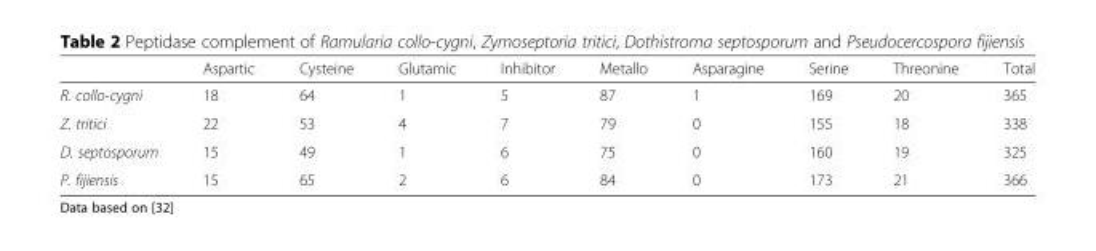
<table><thead><tr><td></td><td>Aspartic</td><td>Cysteine</td><td>Glutamic</td><td>Inhibitor</td><td>Metallo</td><td>Asparagine</td><td>Serine</td><td>Threonine</td><td>Total</td></tr></thead><tbody><tr><td>R. collo-cygni</td><td>18</td><td>64</td><td>1</td><td>5</td><td>87</td><td>1</td><td>169</td><td>20</td><td>365</td></tr><tr><td>Z. tritici</td><td>22</td><td>53</td><td>4</td><td>7</td><td>79</td><td>0</td><td>155</td><td>18</td><td>338</td></tr><tr><td>D. septosporum</td><td>15</td><td>49</td><td>1</td><td>6</td><td>75</td><td>0</td><td>160</td><td>19</td><td>325</td></tr><tr><td>P. fijiensis</td><td>15</td><td>65</td><td>2</td><td>6</td><td>84</td><td>0</td><td>173</td><td>21</td><td>366</td></tr></tbody></table>